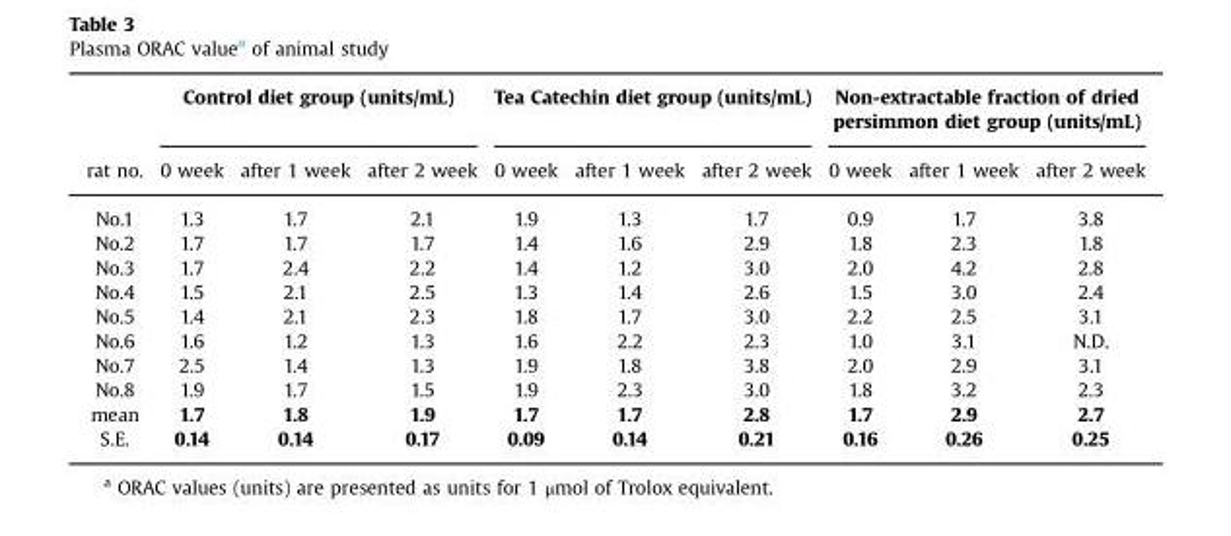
<table><thead><tr><td rowspan="2">rat no.</td><td colspan="3">Control diet group (units/mL)</td><td colspan="3">Tea Catechin diet group (units/mL)</td><td colspan="3">Non-extractable fraction of dried persimmon diet group (units/mL)</td></tr><tr><td>0 week</td><td>after 1 week</td><td>after 2 week</td><td>0 week</td><td>after 1 week</td><td>after 2 week</td><td>0 week</td><td>after 1 week</td><td>after 2 week</td></tr></thead><tbody><tr><td>No.1</td><td>1.3</td><td>1.7</td><td>2.1</td><td>1.9</td><td>1.3</td><td>1.7</td><td>0.9</td><td>1.7</td><td>3.8</td></tr><tr><td>No.2</td><td>1.7</td><td>1.7</td><td>1.7</td><td>1.4</td><td>1.6</td><td>2.9</td><td>1.8</td><td>2.3</td><td>1.8</td></tr><tr><td>No.3</td><td>1.7</td><td>2.4</td><td>2.2</td><td>1.4</td><td>1.2</td><td>3.0</td><td>2.0</td><td>4.2</td><td>2.8</td></tr><tr><td>No.4</td><td>1.5</td><td>2.1</td><td>2.5</td><td>1.3</td><td>1.4</td><td>2.6</td><td>1.5</td><td>3.0</td><td>2.4</td></tr><tr><td>No.5</td><td>1.4</td><td>2.1</td><td>2.3</td><td>1.8</td><td>1.7</td><td>3.0</td><td>2.2</td><td>2.5</td><td>3.1</td></tr><tr><td>No.6</td><td>1.6</td><td>1.2</td><td>1.3</td><td>1.6</td><td>2.2</td><td>2.3</td><td>1.0</td><td>3.1</td><td>N.D.</td></tr><tr><td>No.7</td><td>2.5</td><td>1.4</td><td>1.3</td><td>1.9</td><td>1.8</td><td>3.8</td><td>2.0</td><td>2.9</td><td>3.1</td></tr><tr><td>No.8</td><td>1.9</td><td>1.7</td><td>1.5</td><td>1.9</td><td>2.3</td><td>3.0</td><td>1.8</td><td>3.2</td><td>2.3</td></tr><tr><td>mean</td><td>1.7</td><td>1.8</td><td>1.9</td><td>1.7</td><td>1.7</td><td>2.8</td><td>1.7</td><td>2.9</td><td>2.7</td></tr><tr><td>S.E.</td><td>0.14</td><td>0.14</td><td>0.17</td><td>0.09</td><td>0.14</td><td>0.21</td><td>0.16</td><td>0.26</td><td>0.25</td></tr></tbody></table>